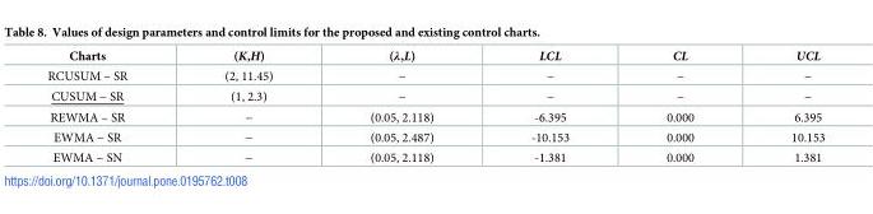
<table><thead><tr><td>Charts</td><td>(K,H)</td><td>(λ,L)</td><td>LCL</td><td>CL</td><td>UCL</td></tr></thead><tbody><tr><td>RCUSUM – SR</td><td>(2, 11.45)</td><td>−</td><td>−</td><td>−</td><td>−</td></tr><tr><td>CUSUM − SR</td><td>(1, 2.3)</td><td>−</td><td>−</td><td>−</td><td>−</td></tr><tr><td>REWMA – SR</td><td>−</td><td>(0.05, 2.118)</td><td>-6.395</td><td>0.000</td><td>6.395</td></tr><tr><td>EWMA − SR</td><td>−</td><td>(0.05, 2.487)</td><td>-10.153</td><td>0.000</td><td>10.153</td></tr><tr><td>EWMA − SN</td><td>−</td><td>(0.05, 2.118)</td><td>-1.381</td><td>0.000</td><td>1.381</td></tr></tbody></table>